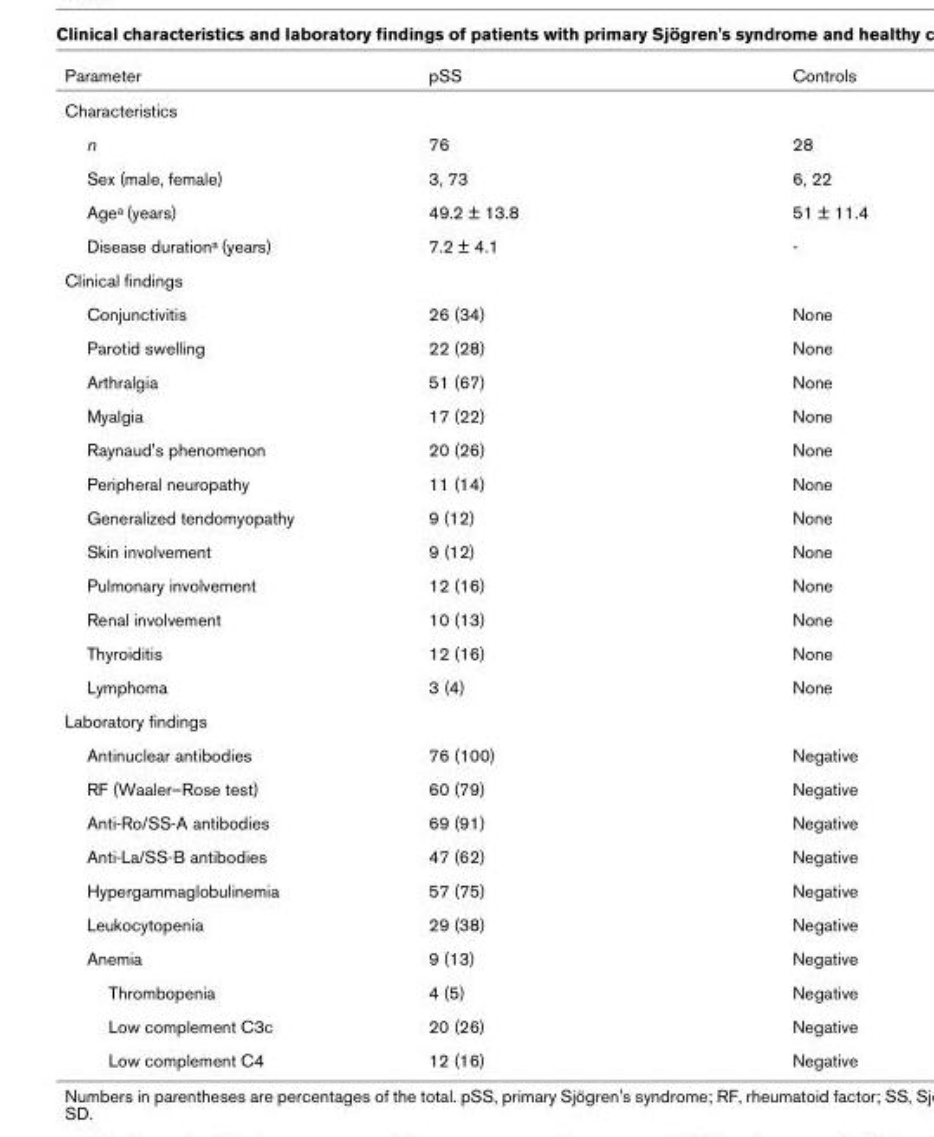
<table><thead><tr><td>Parameter</td><td>pSS</td><td>Controls</td></tr></thead><tbody><tr><td colspan="3">Characteristics</td></tr><tr><td>n</td><td>76</td><td>28</td></tr><tr><td>Sex (male, female)</td><td>3, 73</td><td>6, 22</td></tr><tr><td>Age<sup>a</sup> (years)</td><td>49.2 ± 13.8</td><td>51 ± 11.4</td></tr><tr><td>Disease duration<sup>a</sup> (years)</td><td>7.2 ± 4.1</td><td>-</td></tr><tr><td colspan="3">Clinical findings</td></tr><tr><td>Conjunctivitis</td><td>26 (34)</td><td>None</td></tr><tr><td>Parotid swelling</td><td>22 (28)</td><td>None</td></tr><tr><td>Arthralgia</td><td>51 (67)</td><td>None</td></tr><tr><td>Myalgia</td><td>17 (22)</td><td>None</td></tr><tr><td>Raynaud&#x27;s phenomenon</td><td>20 (26)</td><td>None</td></tr><tr><td>Peripheral neuropathy</td><td>11 (14)</td><td>None</td></tr><tr><td>Generalized tendomyopathy</td><td>9 (12)</td><td>None</td></tr><tr><td>Skin involvement</td><td>9 (12)</td><td>None</td></tr><tr><td>Pulmonary involvement</td><td>12 (16)</td><td>None</td></tr><tr><td>Renal involvement</td><td>10 (13)</td><td>None</td></tr><tr><td>Thyroiditis</td><td>12 (16)</td><td>None</td></tr><tr><td>Lymphoma</td><td>3 (4)</td><td>None</td></tr><tr><td colspan="3">Laboratory findings</td></tr><tr><td>Antinuclear antibodies</td><td>76 (100)</td><td>Negative</td></tr><tr><td>RF (Waaler–Rose test)</td><td>60 (79)</td><td>Negative</td></tr><tr><td>Anti-Ro/SS-A antibodies</td><td>69 (91)</td><td>Negative</td></tr><tr><td>Anti-La/SS-B antibodies</td><td>47 (62)</td><td>Negative</td></tr><tr><td>Hypergammaglobulinemia</td><td>57 (75)</td><td>Negative</td></tr><tr><td>Leukocytopenia</td><td>29 (38)</td><td>Negative</td></tr><tr><td>Anemia</td><td>9 (13)</td><td>Negative</td></tr><tr><td>Thrombopenia</td><td>4 (5)</td><td>Negative</td></tr><tr><td>Low complement C3c</td><td>20 (26)</td><td>Negative</td></tr><tr><td>Low complement C4</td><td>12 (16)</td><td>Negative</td></tr></tbody></table>